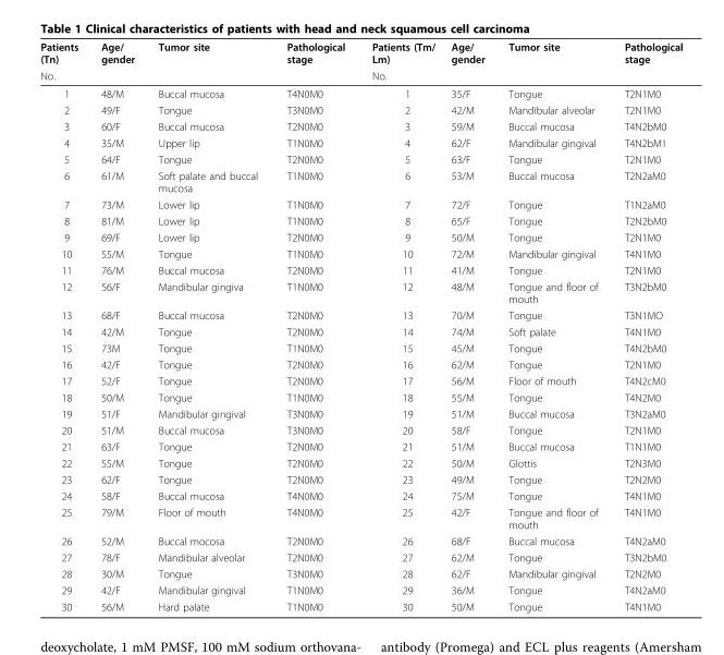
<table><thead><tr><td>Patients (Tn)</td><td>Age/ gender</td><td>Tumor site</td><td>Pathological stage</td><td>Patients (Tm/ Lm)</td><td>Age/ gender</td><td>Tumor site</td><td>Pathological stage</td></tr></thead><tbody><tr><td>No.</td><td></td><td></td><td></td><td>No.</td><td></td><td></td><td></td></tr><tr><td>1</td><td>48/M</td><td>Buccal mucosa</td><td>T4N0M0</td><td>1</td><td>35/F</td><td>Tongue</td><td>T2N1M0</td></tr><tr><td>2</td><td>49/F</td><td>Tongue</td><td>T3N0M0</td><td>2</td><td>42/M</td><td>Mandibular alveolar</td><td>T2N1M0</td></tr><tr><td>3</td><td>60/F</td><td>Buccal mucosa</td><td>T2N0M0</td><td>3</td><td>59/M</td><td>Buccal mucosa</td><td>T4N2bM0</td></tr><tr><td>4</td><td>35/M</td><td>Upper lip</td><td>T1N0M0</td><td>4</td><td>62/F</td><td>Mandibular gingival</td><td>T4N2bM1</td></tr><tr><td>5</td><td>64/F</td><td>Tongue</td><td>T2N0M0</td><td>5</td><td>63/F</td><td>Tongue</td><td>T2N1M0</td></tr><tr><td>6</td><td>61/M</td><td>Soft palate and buccal mucosa</td><td>T1N0M0</td><td>6</td><td>53/M</td><td>Buccal mucosa</td><td>T2N2aM0</td></tr><tr><td>7</td><td>73/M</td><td>Lower lip</td><td>T1N0M0</td><td>7</td><td>72/F</td><td>Tongue</td><td>T1N2aM0</td></tr><tr><td>8</td><td>81/M</td><td>Lower lip</td><td>T1N0M0</td><td>8</td><td>65/F</td><td>Tongue</td><td>T2N2bM0</td></tr><tr><td>9</td><td>69/F</td><td>Lower lip</td><td>T2N0M0</td><td>9</td><td>50/M</td><td>Tongue</td><td>T2N1M0</td></tr><tr><td>10</td><td>55/M</td><td>Tongue</td><td>T1N0M0</td><td>10</td><td>72/M</td><td>Mandibular gingival</td><td>T4N1M0</td></tr><tr><td>11</td><td>76/M</td><td>Buccal mucosa</td><td>T2N0M0</td><td>11</td><td>41/M</td><td>Tongue</td><td>T2N1M0</td></tr><tr><td>12</td><td>56/F</td><td>Mandibular gingiva</td><td>T1N0M0</td><td>12</td><td>48/M</td><td>Tongue and floor of mouth</td><td>T3N2bM0</td></tr><tr><td>13</td><td>68/F</td><td>Buccal mucosa</td><td>T2N0M0</td><td>13</td><td>70/M</td><td>Tongue</td><td>T3N1MO</td></tr><tr><td>14</td><td>42/M</td><td>Tongue</td><td>T2N0M0</td><td>14</td><td>74/M</td><td>Soft palate</td><td>T4N1M0</td></tr><tr><td>15</td><td>73M</td><td>Tongue</td><td>T1N0M0</td><td>15</td><td>45/M</td><td>Tongue</td><td>T4N2bM0</td></tr><tr><td>16</td><td>42/F</td><td>Tongue</td><td>T2N0M0</td><td>16</td><td>62/M</td><td>Tongue</td><td>T2N1M0</td></tr><tr><td>17</td><td>52/F</td><td>Tongue</td><td>T2N0M0</td><td>17</td><td>56/M</td><td>Floor of mouth</td><td>T4N2cM0</td></tr><tr><td>18</td><td>50/M</td><td>Tongue</td><td>T1N0M0</td><td>18</td><td>55/M</td><td>Tongue</td><td>T4N2M0</td></tr><tr><td>19</td><td>51/F</td><td>Mandibular gingival</td><td>T3N0M0</td><td>19</td><td>51/M</td><td>Buccal mucosa</td><td>T3N2aM0</td></tr><tr><td>20</td><td>51/M</td><td>Buccal mucosa</td><td>T3N0M0</td><td>20</td><td>58/F</td><td>Tongue</td><td>T2N1M0</td></tr><tr><td>21</td><td>63/F</td><td>Tongue</td><td>T2N0M0</td><td>21</td><td>51/M</td><td>Buccal mucosa</td><td>T1N1M0</td></tr><tr><td>22</td><td>55/M</td><td>Tongue</td><td>T2N0M0</td><td>22</td><td>50/M</td><td>Glottis</td><td>T2N3M0</td></tr><tr><td>23</td><td>62/F</td><td>Tongue</td><td>T2N0M0</td><td>23</td><td>49/M</td><td>Tongue</td><td>T2N2M0</td></tr><tr><td>24</td><td>58/F</td><td>Buccal mucosa</td><td>T4N0M0</td><td>24</td><td>75/M</td><td>Tongue</td><td>T4N1M0</td></tr><tr><td>25</td><td>79/M</td><td>Floor of mouth</td><td>T4N0M0</td><td>25</td><td>42/F</td><td>Tongue and floor of mouth</td><td>T4N1M0</td></tr><tr><td>26</td><td>52/M</td><td>Buccal mocosa</td><td>T2N0M0</td><td>26</td><td>68/F</td><td>Buccal mucosa</td><td>T4N2aM0</td></tr><tr><td>27</td><td>78/F</td><td>Mandibular alveolar</td><td>T2N0M0</td><td>27</td><td>62/M</td><td>Tongue</td><td>T3N2bM0</td></tr><tr><td>28</td><td>30/M</td><td>Tongue</td><td>T3N0M0</td><td>28</td><td>62/F</td><td>Mandibular gingival</td><td>T2N2M0</td></tr><tr><td>29</td><td>42/F</td><td>Mandibular gingival</td><td>T1N0M0</td><td>29</td><td>36/M</td><td>Tongue</td><td>T4N2aM0</td></tr><tr><td>30</td><td>56/M</td><td>Hard palate</td><td>T1N0M0</td><td>30</td><td>50/M</td><td>Tongue</td><td>T4N1M0</td></tr></tbody></table>